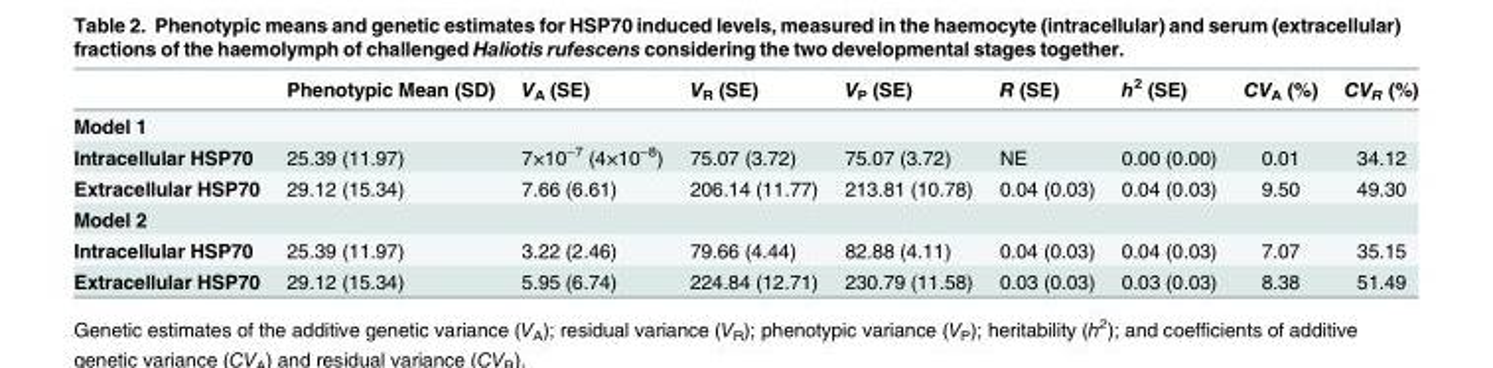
<table><thead><tr><td></td><td>Phenotypic Mean (SD)</td><td>V<sub>A</sub> (SE)</td><td>V<sub>R</sub> (SE)</td><td>V<sub>P</sub> (SE)</td><td>R (SE)</td><td>h<sup>2</sup> (SE)</td><td>CV<sub>A</sub> (%)</td><td>CV<sub>R</sub> (%)</td></tr></thead><tbody><tr><td colspan="9">Model 1</td></tr><tr><td>Intracellular HSP70</td><td>25.39 (11.97)</td><td>7×10<sup>−7</sup> (4×10<sup>−8</sup>)</td><td>75.07 (3.72)</td><td>75.07 (3.72)</td><td>NE</td><td>0.00 (0.00)</td><td>0.01</td><td>34.12</td></tr><tr><td>Extracellular HSP70</td><td>29.12 (15.34)</td><td>7.66 (6.61)</td><td>206.14 (11.77)</td><td>213.81 (10.78)</td><td>0.04 (0.03)</td><td>0.04 (0.03)</td><td>9.50</td><td>49.30</td></tr><tr><td colspan="9">Model 2</td></tr><tr><td>Intracellular HSP70</td><td>25.39 (11.97)</td><td>3.22 (2.46)</td><td>79.66 (4.44)</td><td>82.88 (4.11)</td><td>0.04 (0.03)</td><td>0.04 (0.03)</td><td>7.07</td><td>35.15</td></tr><tr><td>Extracellular HSP70</td><td>29.12 (15.34)</td><td>5.95 (6.74)</td><td>224.84 (12.71)</td><td>230.79 (11.58)</td><td>0.03 (0.03)</td><td>0.03 (0.03)</td><td>8.38</td><td>51.49</td></tr></tbody></table>